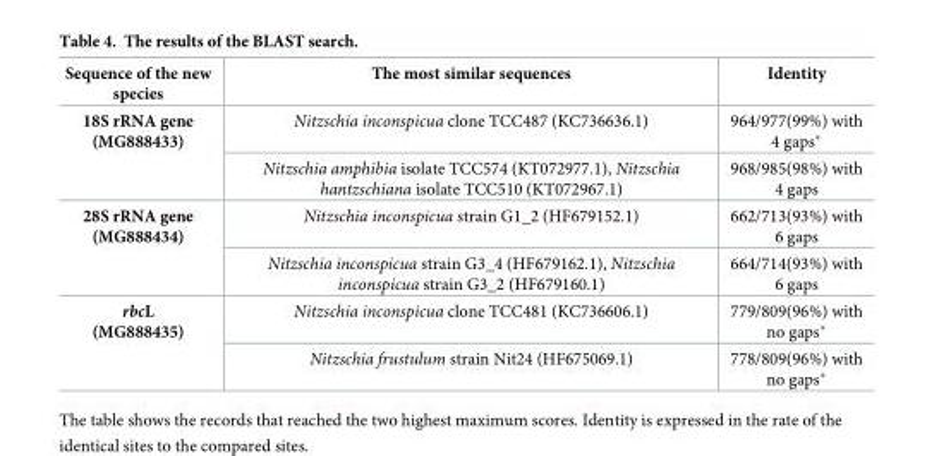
<table><thead><tr><td>Sequence of the new species</td><td>The most similar sequences</td><td>Identity</td></tr></thead><tbody><tr><td rowspan="2">18S rRNA gene (MG888433)</td><td>Nitzschia inconspicua clone TCC487 (KC736636.1)</td><td>964/977(99%) with 4 gaps*</td></tr><tr><td>Nitzschia amphibia isolate TCC574 (KT072977.1), Nitzschia hantzschiana isolate TCC510 (KT072967.1)</td><td>968/985(98%) with 4 gaps</td></tr><tr><td rowspan="2">28S rRNA gene (MG888434)</td><td>Nitzschia inconspicua strain G1_2 (HF679152.1)</td><td>662/713(93%) with 6 gaps</td></tr><tr><td>Nitzschia inconspicua strain G3_4 (HF679162.1), Nitzschia inconspicua strain G3_2 (HF679160.1)</td><td>664/714(93%) with 6 gaps</td></tr><tr><td rowspan="2">rbcL (MG888435)</td><td>Nitzschia inconspicua clone TCC481 (KC736606.1)</td><td>779/809(96%) with no gaps*</td></tr><tr><td>Nitzschia frustulum strain Nit24 (HF675069.1)</td><td>778/809(96%) with no gaps*</td></tr></tbody></table>